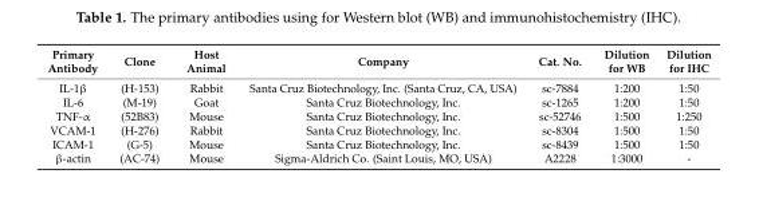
<table><thead><tr><td>Primary Antibody</td><td>Clone</td><td>Host Animal</td><td>Company</td><td>Cat. No.</td><td>Dilution for WB</td><td>Dilution for IHC</td></tr></thead><tbody><tr><td>IL-1β</td><td>(H-153)</td><td>Rabbit</td><td>Santa Cruz Biotechnology, Inc. (Santa Cruz, CA, USA)</td><td>sc-7884</td><td>1:200</td><td>1:50</td></tr><tr><td>IL-6</td><td>(M-19)</td><td>Goat</td><td>Santa Cruz Biotechnology, Inc.</td><td>sc-1265</td><td>1:200</td><td>1:50</td></tr><tr><td>TNF-α</td><td>(52B83)</td><td>Mouse</td><td>Santa Cruz Biotechnology, Inc.</td><td>sc-52746</td><td>1:500</td><td>1:250</td></tr><tr><td>VCAM-1</td><td>(H-276)</td><td>Rabbit</td><td>Santa Cruz Biotechnology, Inc.</td><td>sc-8304</td><td>1:500</td><td>1:50</td></tr><tr><td>ICAM-1</td><td>(G-5)</td><td>Mouse</td><td>Santa Cruz Biotechnology, Inc.</td><td>sc-8439</td><td>1:500</td><td>1:50</td></tr><tr><td>β-actin</td><td>(AC-74)</td><td>Mouse</td><td>Sigma-Aldrich Co. (Saint Louis, MO, USA)</td><td>A2228</td><td>1:3000</td><td>-</td></tr></tbody></table>